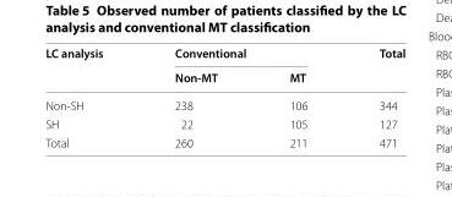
<table><thead><tr><td rowspan="2">LC analysis</td><td colspan="2">Conventional</td><td rowspan="2">Total</td></tr><tr><td>Non-MT</td><td>MT</td></tr></thead><tbody><tr><td>Non-SH</td><td>238</td><td>106</td><td>344</td></tr><tr><td>SH</td><td>22</td><td>105</td><td>127</td></tr><tr><td>Total</td><td>260</td><td>211</td><td>471</td></tr></tbody></table>